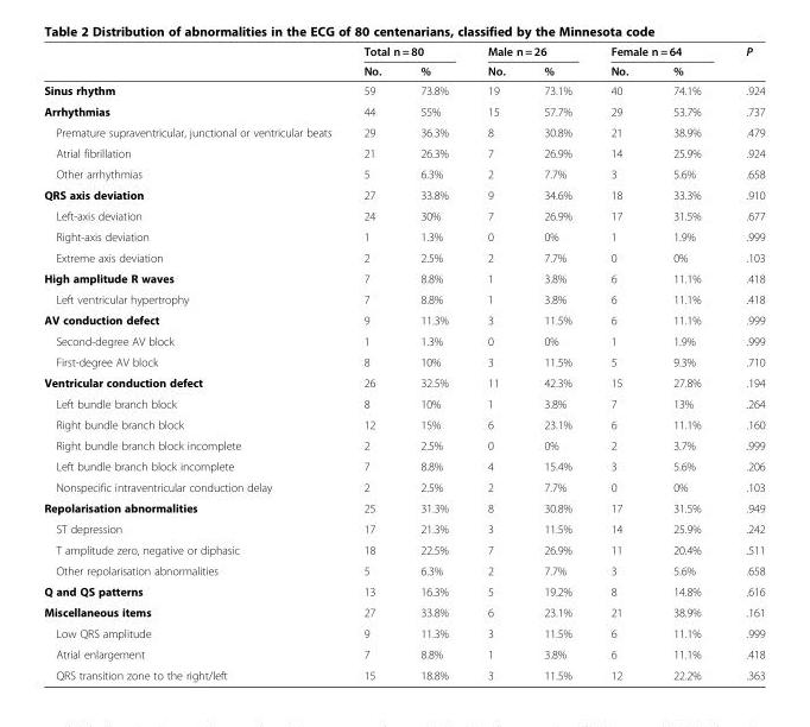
<table><thead><tr><td rowspan="2"></td><td colspan="2">Total n = 80</td><td colspan="2">Male n = 26</td><td colspan="2">Female n = 64</td><td rowspan="2">P</td></tr><tr><td>No.</td><td>%</td><td>No.</td><td>%</td><td>No.</td><td>%</td></tr></thead><tbody><tr><td>Sinus rhythm</td><td>59</td><td>73.8%</td><td>19</td><td>73.1%</td><td>40</td><td>74.1%</td><td>.924</td></tr><tr><td>Arrhythmias</td><td>44</td><td>55%</td><td>15</td><td>57.7%</td><td>29</td><td>53.7%</td><td>.737</td></tr><tr><td>Premature supraventricular, junctional or ventricular beats</td><td>29</td><td>36.3%</td><td>8</td><td>30.8%</td><td>21</td><td>38.9%</td><td>.479</td></tr><tr><td>Atrial fibrillation</td><td>21</td><td>26.3%</td><td>7</td><td>26.9%</td><td>14</td><td>25.9%</td><td>.924</td></tr><tr><td>Other arrhythmias</td><td>5</td><td>6.3%</td><td>2</td><td>7.7%</td><td>3</td><td>5.6%</td><td>.658</td></tr><tr><td>QRS axis deviation</td><td>27</td><td>33.8%</td><td>9</td><td>34.6%</td><td>18</td><td>33.3%</td><td>.910</td></tr><tr><td>Left-axis deviation</td><td>24</td><td>30%</td><td>7</td><td>26.9%</td><td>17</td><td>31.5%</td><td>.677</td></tr><tr><td>Right-axis deviation</td><td>1</td><td>1.3%</td><td>0</td><td>0%</td><td>1</td><td>1.9%</td><td>.999</td></tr><tr><td>Extreme axis deviation</td><td>2</td><td>2.5%</td><td>2</td><td>7.7%</td><td>0</td><td>0%</td><td>.103</td></tr><tr><td>High amplitude R waves</td><td>7</td><td>8.8%</td><td>1</td><td>3.8%</td><td>6</td><td>11.1%</td><td>.418</td></tr><tr><td>Left ventricular hypertrophy</td><td>7</td><td>8.8%</td><td>1</td><td>3.8%</td><td>6</td><td>11.1%</td><td>.418</td></tr><tr><td>AV conduction defect</td><td>9</td><td>11.3%</td><td>3</td><td>11.5%</td><td>6</td><td>11.1%</td><td>.999</td></tr><tr><td>Second-degree AV block</td><td>1</td><td>1.3%</td><td>0</td><td>0%</td><td>1</td><td>1.9%</td><td>.999</td></tr><tr><td>First-degree AV block</td><td>8</td><td>10%</td><td>3</td><td>11.5%</td><td>5</td><td>9.3%</td><td>.710</td></tr><tr><td>Ventricular conduction defect</td><td>26</td><td>32.5%</td><td>11</td><td>42.3%</td><td>15</td><td>27.8%</td><td>.194</td></tr><tr><td>Left bundle branch block</td><td>8</td><td>10%</td><td>1</td><td>3.8%</td><td>7</td><td>13%</td><td>.264</td></tr><tr><td>Right bundle branch block</td><td>12</td><td>15%</td><td>6</td><td>23.1%</td><td>6</td><td>11.1%</td><td>.160</td></tr><tr><td>Right bundle branch block incomplete</td><td>2</td><td>2.5%</td><td>0</td><td>0%</td><td>2</td><td>3.7%</td><td>.999</td></tr><tr><td>Left bundle branch block incomplete</td><td>7</td><td>8.8%</td><td>4</td><td>15.4%</td><td>3</td><td>5.6%</td><td>.206</td></tr><tr><td>Nonspecific intraventricular conduction delay</td><td>2</td><td>2.5%</td><td>2</td><td>7.7%</td><td>0</td><td>0%</td><td>.103</td></tr><tr><td>Repolarisation abnormalities</td><td>25</td><td>31.3%</td><td>8</td><td>30.8%</td><td>17</td><td>31.5%</td><td>.949</td></tr><tr><td>ST depression</td><td>17</td><td>21.3%</td><td>3</td><td>11.5%</td><td>14</td><td>25.9%</td><td>.242</td></tr><tr><td>T amplitude zero, negative or diphasic</td><td>18</td><td>22.5%</td><td>7</td><td>26.9%</td><td>11</td><td>20.4%</td><td>.511</td></tr><tr><td>Other repolarisation abnormalities</td><td>5</td><td>6.3%</td><td>2</td><td>7.7%</td><td>3</td><td>5.6%</td><td>.658</td></tr><tr><td>Q and QS patterns</td><td>13</td><td>16.3%</td><td>5</td><td>19.2%</td><td>8</td><td>14.8%</td><td>.616</td></tr><tr><td>Miscellaneous items</td><td>27</td><td>33.8%</td><td>6</td><td>23.1%</td><td>21</td><td>38.9%</td><td>.161</td></tr><tr><td>Low QRS amplitude</td><td>9</td><td>11.3%</td><td>3</td><td>11.5%</td><td>6</td><td>11.1%</td><td>.999</td></tr><tr><td>Atrial enlargement</td><td>7</td><td>8.8%</td><td>1</td><td>3.8%</td><td>6</td><td>11.1%</td><td>.418</td></tr><tr><td>QRS transition zone to the right/left</td><td>15</td><td>18.8%</td><td>3</td><td>11.5%</td><td>12</td><td>22.2%</td><td>.363</td></tr></tbody></table>